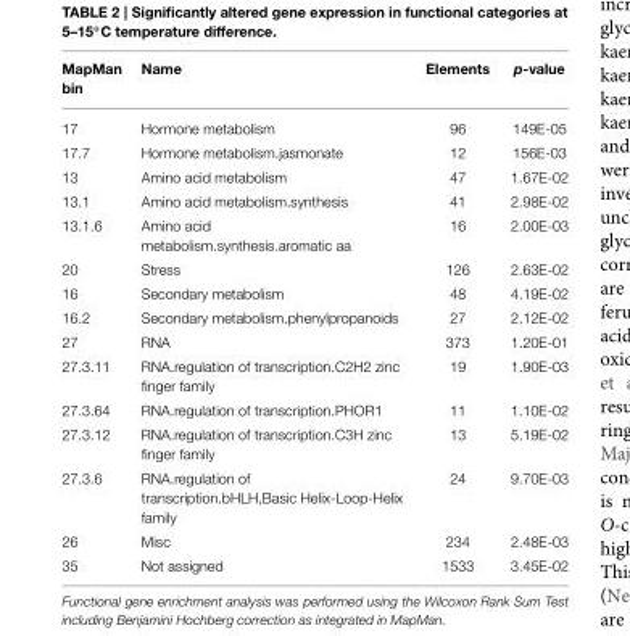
<table><thead><tr><td>MapMan bin</td><td>Name</td><td>Elements</td><td>p-value</td></tr></thead><tbody><tr><td>17</td><td>Hormone metabolism</td><td>96</td><td>149E-05</td></tr><tr><td>17.7</td><td>Hormone metabolism.jasmonate</td><td>12</td><td>156E-03</td></tr><tr><td>13</td><td>Amino acid metabolism</td><td>47</td><td>1.67E-02</td></tr><tr><td>13.1</td><td>Amino acid metabolism.synthesis</td><td>41</td><td>2.98E-02</td></tr><tr><td>13.1.6</td><td>Amino acid metabolism.synthesis.aromatic aa</td><td>16</td><td>2.00E-03</td></tr><tr><td>20</td><td>Stress</td><td>126</td><td>2.63E-02</td></tr><tr><td>16</td><td>Secondary metabolism</td><td>48</td><td>4.19E-02</td></tr><tr><td>16.2</td><td>Secondary metabolism.phenylpropanoids</td><td>27</td><td>2.12E-02</td></tr><tr><td>27</td><td>RNA</td><td>373</td><td>1.20E-01</td></tr><tr><td>27.3.11</td><td>RNA.regulation of transcription.C2H2 zinc finger family</td><td>19</td><td>1.90E-03</td></tr><tr><td>27.3.64</td><td>RNA.regulation of transcription.PHOR1</td><td>11</td><td>1.10E-02</td></tr><tr><td>27.3.12</td><td>RNA.regulation of transcription.C3H zinc finger family</td><td>13</td><td>5.19E-02</td></tr><tr><td>27.3.6</td><td>RNA.regulation of transcription.bHLH,Basic Helix-Loop-Helix family</td><td>24</td><td>9.70E-03</td></tr><tr><td>26</td><td>Misc</td><td>234</td><td>2.48E-03</td></tr><tr><td>35</td><td>Not assigned</td><td>1533</td><td>3.45E-02</td></tr></tbody></table>